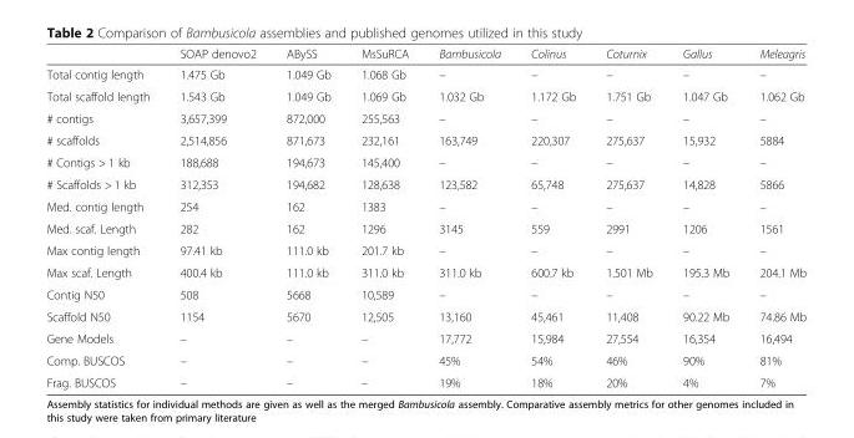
<table><thead><tr><td></td><td>SOAP denovo2</td><td>ABySS</td><td>MsSuRCA</td><td>Bambusicola</td><td>Colinus</td><td>Coturnix</td><td>Gallus</td><td>Meleagris</td></tr></thead><tbody><tr><td>Total contig length</td><td>1.475 Gb</td><td>1.049 Gb</td><td>1.068 Gb</td><td>–</td><td>–</td><td>–</td><td>–</td><td>–</td></tr><tr><td>Total scaffold length</td><td>1.543 Gb</td><td>1.049 Gb</td><td>1.069 Gb</td><td>1.032 Gb</td><td>1.172 Gb</td><td>1.751 Gb</td><td>1.047 Gb</td><td>1.062 Gb</td></tr><tr><td># contigs</td><td>3,657,399</td><td>872,000</td><td>255,563</td><td>–</td><td>–</td><td>–</td><td>–</td><td>–</td></tr><tr><td># scaffolds</td><td>2,514,856</td><td>871,673</td><td>232,161</td><td>163,749</td><td>220,307</td><td>275,637</td><td>15,932</td><td>5884</td></tr><tr><td># Contigs &gt; 1 kb</td><td>188,688</td><td>194,673</td><td>145,400</td><td>–</td><td>–</td><td>–</td><td>–</td><td>–</td></tr><tr><td># Scaffolds &gt; 1 kb</td><td>312,353</td><td>194,682</td><td>128,638</td><td>123,582</td><td>65,748</td><td>275,637</td><td>14,828</td><td>5866</td></tr><tr><td>Med. contig length</td><td>254</td><td>162</td><td>1383</td><td>–</td><td>–</td><td>–</td><td>–</td><td>–</td></tr><tr><td>Med. scaf. Length</td><td>282</td><td>162</td><td>1296</td><td>3145</td><td>559</td><td>2991</td><td>1206</td><td>1561</td></tr><tr><td>Max contig length</td><td>97.41 kb</td><td>111.0 kb</td><td>201.7 kb</td><td>–</td><td>–</td><td>–</td><td>–</td><td>–</td></tr><tr><td>Max scaf. Length</td><td>400.4 kb</td><td>111.0 kb</td><td>311.0 kb</td><td>311.0 kb</td><td>600.7 kb</td><td>1.501 Mb</td><td>195.3 Mb</td><td>204.1 Mb</td></tr><tr><td>Contig N50</td><td>508</td><td>5668</td><td>10,589</td><td>–</td><td>–</td><td>–</td><td>–</td><td>–</td></tr><tr><td>Scaffold N50</td><td>1154</td><td>5670</td><td>12,505</td><td>13,160</td><td>45,461</td><td>11,408</td><td>90.22 Mb</td><td>74.86 Mb</td></tr><tr><td>Gene Models</td><td>–</td><td>–</td><td>–</td><td>17,772</td><td>15,984</td><td>27,554</td><td>16,354</td><td>16,494</td></tr><tr><td>Comp. BUSCOS</td><td>–</td><td>–</td><td>–</td><td>45%</td><td>54%</td><td>46%</td><td>90%</td><td>81%</td></tr><tr><td>Frag. BUSCOS</td><td>–</td><td>–</td><td>–</td><td>19%</td><td>18%</td><td>20%</td><td>4%</td><td>7%</td></tr></tbody></table>